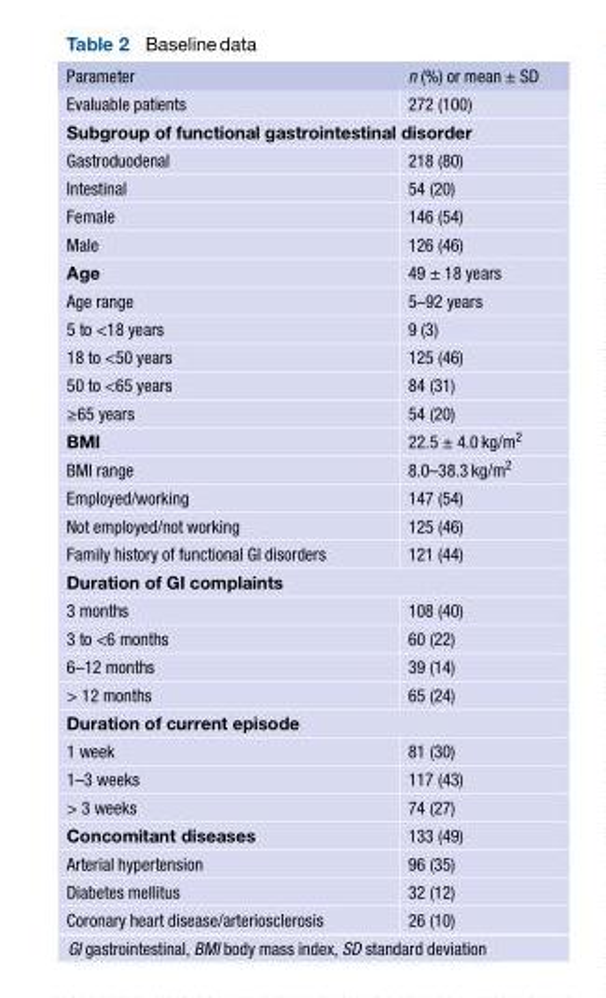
<table><thead><tr><td>Parameter</td><td>n (%) or mean ± SD</td></tr></thead><tbody><tr><td>Evaluable patients</td><td>272 (100)</td></tr><tr><td colspan="2">Subgroup of functional gastrointestinal disorder</td></tr><tr><td>Gastroduodenal</td><td>218 (80)</td></tr><tr><td>Intestinal</td><td>54 (20)</td></tr><tr><td>Female</td><td>146 (54)</td></tr><tr><td>Male</td><td>126 (46)</td></tr><tr><td>Age</td><td>49 ± 18 years</td></tr><tr><td>Age range</td><td>5–92 years</td></tr><tr><td>5 to &lt;18 years</td><td>9 (3)</td></tr><tr><td>18 to &lt;50 years</td><td>125 (46)</td></tr><tr><td>50 to &lt;65 years</td><td>84 (31)</td></tr><tr><td>≥65 years</td><td>54 (20)</td></tr><tr><td>BMI</td><td>22.5 ± 4.0 kg/m<sup>2</sup></td></tr><tr><td>BMI range</td><td>8.0–38.3 kg/m<sup>2</sup></td></tr><tr><td>Employed/working</td><td>147 (54)</td></tr><tr><td>Not employed/not working</td><td>125 (46)</td></tr><tr><td>Family history of functional GI disorders</td><td>121 (44)</td></tr><tr><td colspan="2">Duration of GI complaints</td></tr><tr><td>3 months</td><td>108 (40)</td></tr><tr><td>3 to &lt;6 months</td><td>60 (22)</td></tr><tr><td>6–12 months</td><td>39 (14)</td></tr><tr><td>&gt; 12 months</td><td>65 (24)</td></tr><tr><td colspan="2">Duration of current episode</td></tr><tr><td>1 week</td><td>81 (30)</td></tr><tr><td>1–3 weeks</td><td>117 (43)</td></tr><tr><td>&gt; 3 weeks</td><td>74 (27)</td></tr><tr><td>Concomitant diseases</td><td>133 (49)</td></tr><tr><td>Arterial hypertension</td><td>96 (35)</td></tr><tr><td>Diabetes mellitus</td><td>32 (12)</td></tr><tr><td>Coronary heart disease/arteriosclerosis</td><td>26 (10)</td></tr></tbody></table>